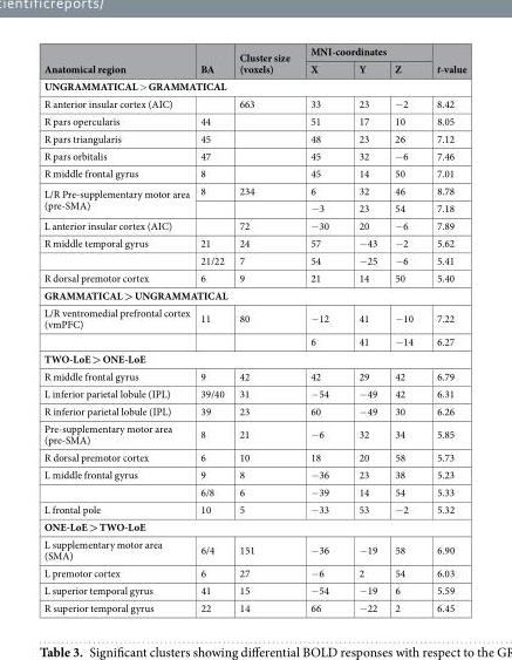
<table><thead><tr><td rowspan="2">Anatomical region</td><td rowspan="2">BA</td><td rowspan="2">Cluster size (voxels)</td><td colspan="3">MNI-coordinates</td><td rowspan="2">t-value</td></tr><tr><td>X</td><td>Y</td><td>Z</td></tr></thead><tbody><tr><td colspan="7">UNGRAMMATICAL &gt; GRAMMATICAL</td></tr><tr><td>R anterior insular cortex (AIC)</td><td></td><td>663</td><td>33</td><td>23</td><td>−2</td><td>8.42</td></tr><tr><td>R pars opercularis</td><td>44</td><td></td><td>51</td><td>17</td><td>10</td><td>8.05</td></tr><tr><td>R pars triangularis</td><td>45</td><td></td><td>48</td><td>23</td><td>26</td><td>7.12</td></tr><tr><td>R pars orbitalis</td><td>47</td><td></td><td>45</td><td>32</td><td>−6</td><td>7.46</td></tr><tr><td>R middle frontal gyrus</td><td>8</td><td></td><td>45</td><td>14</td><td>50</td><td>7.01</td></tr><tr><td rowspan="2">L/R Pre-supplementary motor area (pre-SMA)</td><td>8</td><td>234</td><td>6</td><td>32</td><td>46</td><td>8.78</td></tr><tr><td></td><td></td><td>−3</td><td>23</td><td>54</td><td>7.18</td></tr><tr><td>L anterior insular cortex (AIC)</td><td></td><td>72</td><td>−30</td><td>20</td><td>−6</td><td>7.89</td></tr><tr><td rowspan="2">R middle temporal gyrus</td><td>21</td><td>24</td><td>57</td><td>−43</td><td>−2</td><td>5.62</td></tr><tr><td>21/22</td><td>7</td><td>54</td><td>−25</td><td>−6</td><td>5.41</td></tr><tr><td>R dorsal premotor cortex</td><td>6</td><td>9</td><td>21</td><td>14</td><td>50</td><td>5.40</td></tr><tr><td colspan="7">GRAMMATICAL &gt; UNGRAMMATICAL</td></tr><tr><td rowspan="2">L/R ventromedial prefrontal cortex (vmPFC)</td><td>11</td><td>80</td><td>−12</td><td>41</td><td>−10</td><td>7.22</td></tr><tr><td></td><td></td><td>6</td><td>41</td><td>−14</td><td>6.27</td></tr><tr><td colspan="7">TWO-LoE &gt; ONE-LoE</td></tr><tr><td>R middle frontal gyrus</td><td>9</td><td>42</td><td>42</td><td>29</td><td>42</td><td>6.79</td></tr><tr><td>L inferior parietal lobule (IPL)</td><td>39/40</td><td>31</td><td>−54</td><td>−49</td><td>42</td><td>6.31</td></tr><tr><td>R inferior parietal lobule (IPL)</td><td>39</td><td>23</td><td>60</td><td>−49</td><td>30</td><td>6.26</td></tr><tr><td>Pre-supplementary motor area (pre-SMA)</td><td>8</td><td>21</td><td>−6</td><td>32</td><td>34</td><td>5.85</td></tr><tr><td>R dorsal premotor cortex</td><td>6</td><td>10</td><td>18</td><td>20</td><td>58</td><td>5.73</td></tr><tr><td rowspan="2">L middle frontal gyrus</td><td>9</td><td>8</td><td>−36</td><td>23</td><td>38</td><td>5.23</td></tr><tr><td>6/8</td><td>6</td><td>−39</td><td>14</td><td>54</td><td>5.33</td></tr><tr><td>L frontal pole</td><td>10</td><td>5</td><td>−33</td><td>53</td><td>−2</td><td>5.32</td></tr><tr><td colspan="7">ONE-LoE &gt; TWO-LoE</td></tr><tr><td>L supplementary motor area (SMA)</td><td>6/4</td><td>151</td><td>−36</td><td>−19</td><td>58</td><td>6.90</td></tr><tr><td>L premotor cortex</td><td>6</td><td>27</td><td>−6</td><td>2</td><td>54</td><td>6.03</td></tr><tr><td>L superior temporal gyrus</td><td>41</td><td>15</td><td>−54</td><td>−19</td><td>6</td><td>5.59</td></tr><tr><td>R superior temporal gyrus</td><td>22</td><td>14</td><td>66</td><td>−22</td><td>2</td><td>6.45</td></tr></tbody></table>